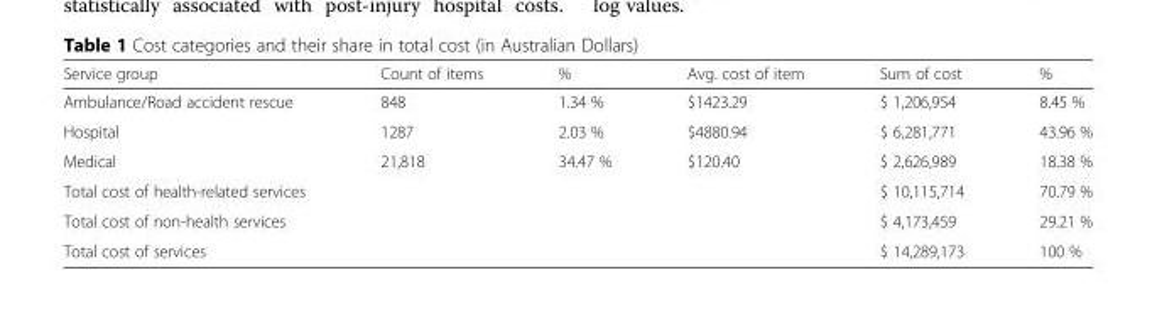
<table><thead><tr><td>Service group</td><td>Count of items</td><td>%</td><td>Avg. cost of item</td><td>Sum of cost</td><td>%</td></tr></thead><tbody><tr><td>Ambulance/Road accident rescue</td><td>848</td><td>1.34 %</td><td>$1423.29</td><td>$ 1,206,954</td><td>8.45 %</td></tr><tr><td>Hospital</td><td>1287</td><td>2.03 %</td><td>$4880.94</td><td>$ 6,281,771</td><td>43.96 %</td></tr><tr><td>Medical</td><td>21,818</td><td>34.47 %</td><td>$120.40</td><td>$ 2,626,989</td><td>18.38 %</td></tr><tr><td>Total cost of health-related services</td><td></td><td></td><td></td><td>$ 10,115,714</td><td>70.79 %</td></tr><tr><td>Total cost of non-health services</td><td></td><td></td><td></td><td>$ 4,173,459</td><td>29.21 %</td></tr><tr><td>Total cost of services</td><td></td><td></td><td></td><td>$ 14,289,173</td><td>100 %</td></tr></tbody></table>